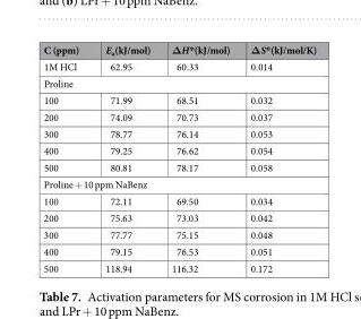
<table><thead><tr><td>C (ppm)</td><td>E<sub>a</sub>(kJ/mol)</td><td>ΔH*(kJ/mol)</td><td>ΔS*(kJ/mol/K)</td></tr></thead><tbody><tr><td>1M HCl</td><td>62.95</td><td>60.33</td><td>0.014</td></tr><tr><td colspan="4">Proline</td></tr><tr><td>100</td><td>71.99</td><td>68.51</td><td>0.032</td></tr><tr><td>200</td><td>74.09</td><td>70.73</td><td>0.037</td></tr><tr><td>300</td><td>78.77</td><td>76.14</td><td>0.053</td></tr><tr><td>400</td><td>79.25</td><td>76.62</td><td>0.054</td></tr><tr><td>500</td><td>80.81</td><td>78.17</td><td>0.058</td></tr><tr><td colspan="4">Proline + 10 ppm NaBenz</td></tr><tr><td>100</td><td>72.11</td><td>69.50</td><td>0.034</td></tr><tr><td>200</td><td>75.63</td><td>73.03</td><td>0.042</td></tr><tr><td>300</td><td>77.77</td><td>75.15</td><td>0.048</td></tr><tr><td>400</td><td>79.15</td><td>76.53</td><td>0.051</td></tr><tr><td>500</td><td>118.94</td><td>116.32</td><td>0.172</td></tr></tbody></table>